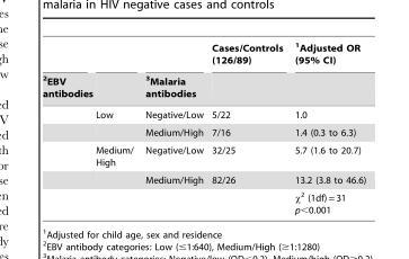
<table><thead><tr><td rowspan="2">2EBV antibodies</td><td rowspan="2"></td><td rowspan="2">3Malaria antibodies</td><td rowspan="2">Cases/Controls (126/89)</td><td rowspan="2">1Adjusted OR (95% CI)</td></tr><tr></tr></thead><tbody><tr><td></td><td>Low</td><td>Negative/Low</td><td>5/22</td><td>1.0</td></tr><tr><td></td><td></td><td>Medium/High</td><td>7/16</td><td>1.4 (0.3 to 6.3)</td></tr><tr><td></td><td>Medium/ High</td><td>Negative/Low</td><td>32/25</td><td>5.7 (1.6 to 20.7)</td></tr><tr><td></td><td></td><td>Medium/High</td><td>82/26</td><td>13.2 (3.8 to 46.6)</td></tr><tr><td></td><td></td><td></td><td></td><td>χ<sup>2</sup> (1df) = 31 p&lt;0.001</td></tr></tbody></table>